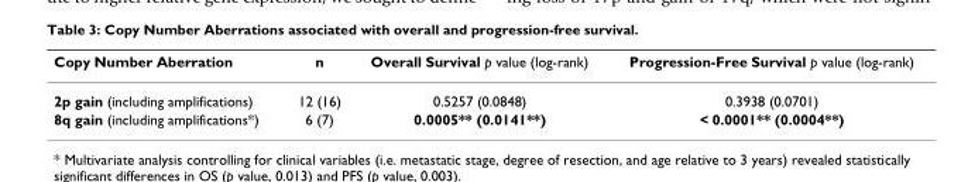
<table><thead><tr><td>Copy Number Aberration</td><td>n</td><td>Overall Survival p value (log-rank)</td><td>Progression-Free Survival p value (log-rank)</td></tr></thead><tbody><tr><td>2p gain (including amplifications)</td><td>12 (16)</td><td>0.5257 (0.0848)</td><td>0.3938 (0.0701)</td></tr><tr><td>8q gain (including amplifications*)</td><td>6 (7)</td><td>0.0005** (0.0141**)</td><td>&lt; 0.0001** (0.0004**)</td></tr></tbody></table>